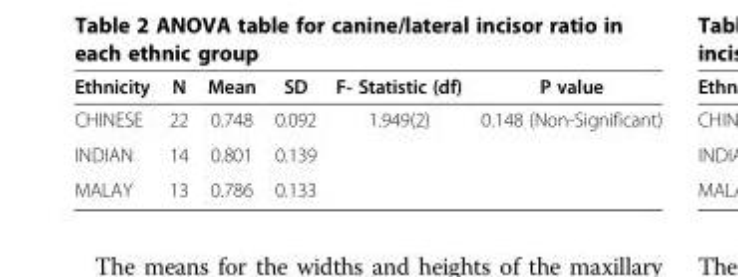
<table><thead><tr><td>Ethnicity</td><td>N</td><td>Mean</td><td>SD</td><td>F- Statistic (df)</td><td>P value</td></tr></thead><tbody><tr><td>CHINESE</td><td>22</td><td>0.748</td><td>0.092</td><td rowspan="2">1.949(2)</td><td rowspan="2">0.148 (Non-Significant)</td></tr><tr><td>INDIAN</td><td>14</td><td>0.801</td><td>0.139</td></tr><tr><td>MALAY</td><td>13</td><td>0.786</td><td>0.133</td><td></td><td></td></tr></tbody></table>